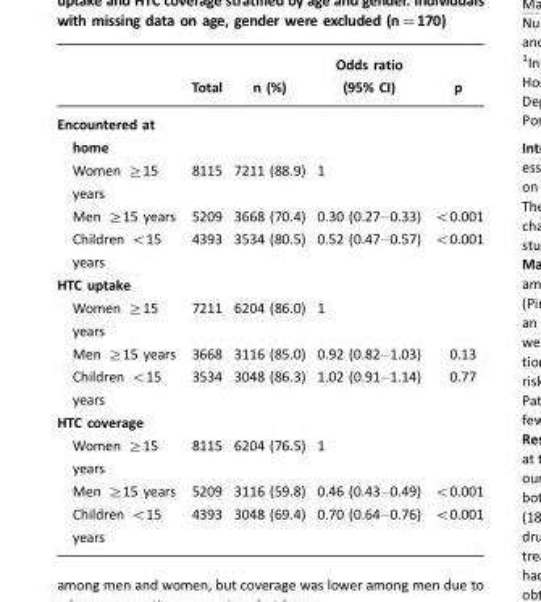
<table><thead><tr><td></td><td>Total</td><td>n (%)</td><td>Odds ratio (95% CI)</td><td>p</td></tr></thead><tbody><tr><td colspan="5">Encountered at home</td></tr><tr><td>Women ≥15 years</td><td>8115</td><td>7211 (88.9)</td><td>1</td><td></td></tr><tr><td>Men ≥15 years</td><td>5209</td><td>3668 (70.4)</td><td>0.30 (0.27–0.33)</td><td>&lt;0.001</td></tr><tr><td>Children &lt;15 years</td><td>4393</td><td>3534 (80.5)</td><td>0.52 (0.47–0.57)</td><td>&lt;0.001</td></tr><tr><td colspan="5">HTC uptake</td></tr><tr><td>Women ≥15 years</td><td>7211</td><td>6204 (86.0)</td><td>1</td><td></td></tr><tr><td>Men ≥15 years</td><td>3668</td><td>3116 (85.0)</td><td>0.92 (0.82–1.03)</td><td>0.13</td></tr><tr><td>Children &lt;15 years</td><td>3534</td><td>3048 (86.3)</td><td>1.02 (0.91–1.14)</td><td>0.77</td></tr><tr><td colspan="5">HTC coverage</td></tr><tr><td>Women ≥15 years</td><td>8115</td><td>6204 (76.5)</td><td>1</td><td></td></tr><tr><td>Men ≥15 years</td><td>5209</td><td>3116 (59.8)</td><td>0.46 (0.43–0.49)</td><td>&lt;0.001</td></tr><tr><td>Children &lt;15 years</td><td>4393</td><td>3048 (69.4)</td><td>0.70 (0.64–0.76)</td><td>&lt;0.001</td></tr></tbody></table>